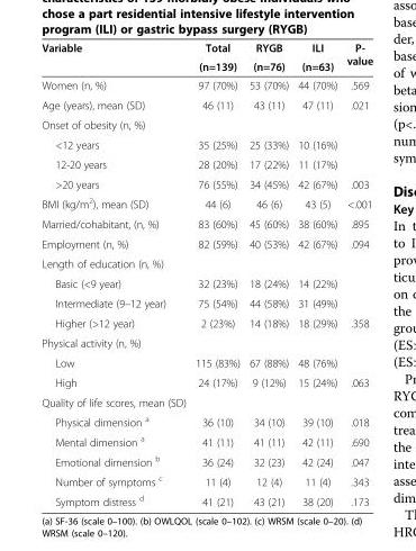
<table><thead><tr><td rowspan="2">Variable</td><td rowspan="2">Total (n=139)</td><td rowspan="2">RYGB (n=76)</td><td rowspan="2">ILI (n=63)</td><td rowspan="2">P- value</td></tr><tr></tr></thead><tbody><tr><td>Women (n, %)</td><td>97 (70%)</td><td>53 (70%)</td><td>44 (70%)</td><td>.569</td></tr><tr><td>Age (years), mean (SD)</td><td>46 (11)</td><td>43 (11)</td><td>47 (11)</td><td>.021</td></tr><tr><td colspan="5">Onset of obesity (n, %)</td></tr><tr><td>&lt;12 years</td><td>35 (25%)</td><td>25 (33%)</td><td>10 (16%)</td><td></td></tr><tr><td>12-20 years</td><td>28 (20%)</td><td>17 (22%)</td><td>11 (17%)</td><td></td></tr><tr><td>&gt;20 years</td><td>76 (55%)</td><td>34 (45%)</td><td>42 (67%)</td><td>.003</td></tr><tr><td>BMI (kg/m<sup>2</sup>), mean (SD)</td><td>44 (6)</td><td>46 (6)</td><td>43 (5)</td><td>&lt;.001</td></tr><tr><td>Married/cohabitant, (n, %)</td><td>83 (60%)</td><td>45 (60%)</td><td>38 (60%)</td><td>.895</td></tr><tr><td>Employment (n, %)</td><td>82 (59%)</td><td>40 (53%)</td><td>42 (67%)</td><td>.094</td></tr><tr><td colspan="5">Length of education (n, %)</td></tr><tr><td>Basic (&lt;9 year)</td><td>32 (23%)</td><td>18 (24%)</td><td>14 (22%)</td><td></td></tr><tr><td>Intermediate (9–12 year)</td><td>75 (54%)</td><td>44 (58%)</td><td>31 (49%)</td><td></td></tr><tr><td>Higher (&gt;12 year)</td><td>2 (23%)</td><td>14 (18%)</td><td>18 (29%)</td><td>.358</td></tr><tr><td colspan="5">Physical activity (n, %)</td></tr><tr><td>Low</td><td>115 (83%)</td><td>67 (88%)</td><td>48 (76%)</td><td></td></tr><tr><td>High</td><td>24 (17%)</td><td>9 (12%)</td><td>15 (24%)</td><td>.063</td></tr><tr><td colspan="5">Quality of life scores, mean (SD)</td></tr><tr><td>Physical dimension <sup>a</sup></td><td>36 (10)</td><td>34 (10)</td><td>39 (10)</td><td>.018</td></tr><tr><td>Mental dimension <sup>a</sup></td><td>41 (11)</td><td>41 (11)</td><td>42 (11)</td><td>.690</td></tr><tr><td>Emotional dimension <sup>b</sup></td><td>36 (24)</td><td>32 (23)</td><td>42 (24)</td><td>.047</td></tr><tr><td>Number of symptoms <sup>c</sup></td><td>11 (4)</td><td>12 (4)</td><td>11 (4)</td><td>.343</td></tr><tr><td>Symptom distress <sup>d</sup></td><td>41 (21)</td><td>43 (21)</td><td>38 (20)</td><td>.173</td></tr></tbody></table>